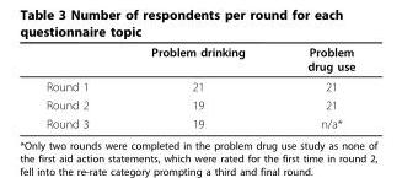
<table><thead><tr><td></td><td>Problem drinking</td><td>Problem drug use</td></tr></thead><tbody><tr><td>Round 1</td><td>21</td><td>21</td></tr><tr><td>Round 2</td><td>19</td><td>21</td></tr><tr><td>Round 3</td><td>19</td><td>n/a*</td></tr></tbody></table>